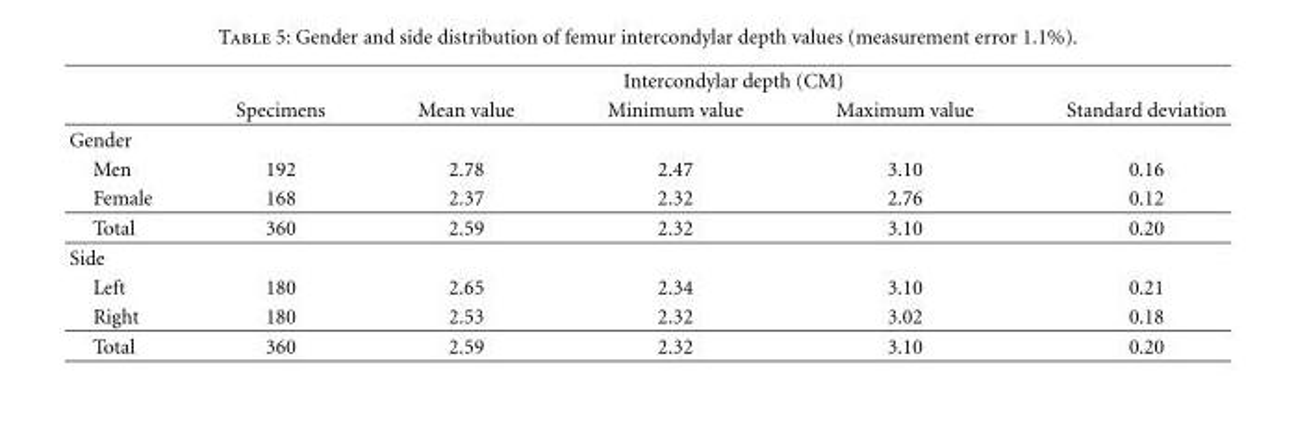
<table><thead><tr><td rowspan="2"></td><td colspan="5">Intercondylar depth (CM)</td></tr><tr><td>Specimens</td><td>Mean value</td><td>Minimum value</td><td>Maximum value</td><td>Standard deviation</td></tr></thead><tbody><tr><td colspan="6">Gender</td></tr><tr><td>Men</td><td>192</td><td>2.78</td><td>2.47</td><td>3.10</td><td>0.16</td></tr><tr><td>Female</td><td>168</td><td>2.37</td><td>2.32</td><td>2.76</td><td>0.12</td></tr><tr><td>Total</td><td>360</td><td>2.59</td><td>2.32</td><td>3.10</td><td>0.20</td></tr><tr><td colspan="6">Side</td></tr><tr><td>Left</td><td>180</td><td>2.65</td><td>2.34</td><td>3.10</td><td>0.21</td></tr><tr><td>Right</td><td>180</td><td>2.53</td><td>2.32</td><td>3.02</td><td>0.18</td></tr><tr><td>Total</td><td>360</td><td>2.59</td><td>2.32</td><td>3.10</td><td>0.20</td></tr></tbody></table>